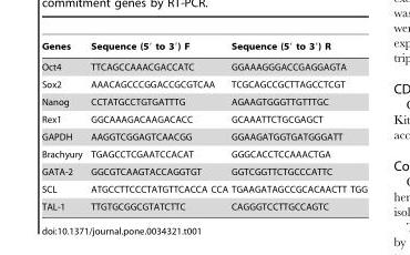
<table><thead><tr><td>Genes</td><td>Sequence (5′ to 3′) F</td><td>Sequence (5′ to 3′) R</td></tr></thead><tbody><tr><td>Oct4</td><td>TTCAGCCAAACGACCATC</td><td>GGAAAGGGACCGAGGAGTA</td></tr><tr><td>Sox2</td><td>AAACAGCCCGGACCGCGTCAA</td><td>TCGCAGCCGCTTAGCCTCGT</td></tr><tr><td>Nanog</td><td>CCTATGCCTGTGATTTG</td><td>AGAAGTGGGTTGTTTGC</td></tr><tr><td>Rex1</td><td>GGCAAAGACAAGACACC</td><td>GCAAATTCTGCGAGCT</td></tr><tr><td>GAPDH</td><td>AAGGTCGGAGTCAACGG</td><td>GGAAGATGGTGATGGGATT</td></tr><tr><td>Brachyury</td><td>TGAGCCTCGAATCCACAT</td><td>GGGCACCTCCAAACTGA</td></tr><tr><td>GATA-2</td><td>GGCGTCAAGTACCAGGTGT</td><td>GGTCGGTTCTGCCCATTC</td></tr><tr><td>SCL</td><td>ATGCCTTCCCTATGTTCACCA CCA</td><td>TGAAGATAGCCGCACAACTT TGG</td></tr><tr><td>TAL-1</td><td>TTGTGCGGCGTATCTTC</td><td>CAGGGTCCTTGCCAGTC</td></tr></tbody></table>